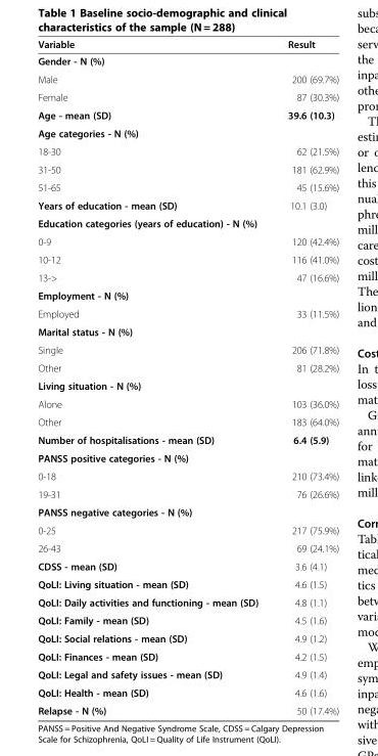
<table><thead><tr><td>Variable</td><td>Result</td></tr></thead><tbody><tr><td colspan="2">Gender - N (%)</td></tr><tr><td>Male</td><td>200 (69.7%)</td></tr><tr><td>Female</td><td>87 (30.3%)</td></tr><tr><td>Age - mean (SD)</td><td>39.6 (10.3)</td></tr><tr><td colspan="2">Age categories - N (%)</td></tr><tr><td>18-30</td><td>62 (21.5%)</td></tr><tr><td>31-50</td><td>181 (62.9%)</td></tr><tr><td>51-65</td><td>45 (15.6%)</td></tr><tr><td>Years of education - mean (SD)</td><td>10.1 (3.0)</td></tr><tr><td colspan="2">Education categories (years of education) - N (%)</td></tr><tr><td>0-9</td><td>120 (42.4%)</td></tr><tr><td>10-12</td><td>116 (41.0%)</td></tr><tr><td>13-&gt;</td><td>47 (16.6%)</td></tr><tr><td colspan="2">Employment - N (%)</td></tr><tr><td>Employed</td><td>33 (11.5%)</td></tr><tr><td colspan="2">Marital status - N (%)</td></tr><tr><td>Single</td><td>206 (71.8%)</td></tr><tr><td>Other</td><td>81 (28.2%)</td></tr><tr><td colspan="2">Living situation - N (%)</td></tr><tr><td>Alone</td><td>103 (36.0%)</td></tr><tr><td>Other</td><td>183 (64.0%)</td></tr><tr><td>Number of hospitalisations - mean (SD)</td><td>6.4 (5.9)</td></tr><tr><td colspan="2">PANSS positive categories - N (%)</td></tr><tr><td>0-18</td><td>210 (73.4%)</td></tr><tr><td>19-31</td><td>76 (26.6%)</td></tr><tr><td colspan="2">PANSS negative categories - N (%)</td></tr><tr><td>0-25</td><td>217 (75.9%)</td></tr><tr><td>26-43</td><td>69 (24.1%)</td></tr><tr><td>CDSS - mean (SD)</td><td>3.6 (4.1)</td></tr><tr><td>QoLI: Living situation - mean (SD)</td><td>4.6 (1.5)</td></tr><tr><td>QoLI: Daily activities and functioning - mean (SD)</td><td>4.8 (1.1)</td></tr><tr><td>QoLI: Family - mean (SD)</td><td>4.5 (1.6)</td></tr><tr><td>QoLI: Social relations - mean (SD)</td><td>4.9 (1.2)</td></tr><tr><td>QoLI: Finances - mean (SD)</td><td>4.2 (1.5)</td></tr><tr><td>QoLI: Legal and safety issues - mean (SD)</td><td>4.9 (1.4)</td></tr><tr><td>QoLI: Health - mean (SD)</td><td>4.6 (1.6)</td></tr><tr><td>Relapse - N (%)</td><td>50 (17.4%)</td></tr></tbody></table>